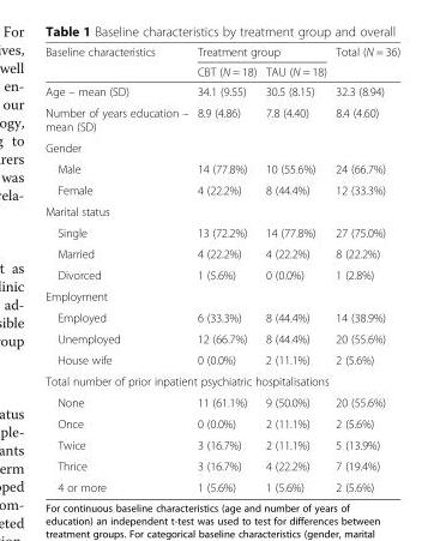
<table><thead><tr><td rowspan="2">Baseline characteristics</td><td colspan="2">Treatment group</td><td rowspan="2">Total (N = 36)</td></tr><tr><td>CBT (N = 18)</td><td>TAU (N = 18)</td></tr></thead><tbody><tr><td>Age – mean (SD)</td><td>34.1 (9.55)</td><td>30.5 (8.15)</td><td>32.3 (8.94)</td></tr><tr><td>Number of years education – mean (SD)</td><td>8.9 (4.86)</td><td>7.8 (4.40)</td><td>8.4 (4.60)</td></tr><tr><td colspan="4">Gender</td></tr><tr><td>Male</td><td>14 (77.8%)</td><td>10 (55.6%)</td><td>24 (66.7%)</td></tr><tr><td>Female</td><td>4 (22.2%)</td><td>8 (44.4%)</td><td>12 (33.3%)</td></tr><tr><td colspan="4">Marital status</td></tr><tr><td>Single</td><td>13 (72.2%)</td><td>14 (77.8%)</td><td>27 (75.0%)</td></tr><tr><td>Married</td><td>4 (22.2%)</td><td>4 (22.2%)</td><td>8 (22.2%)</td></tr><tr><td>Divorced</td><td>1 (5.6%)</td><td>0 (0.0%)</td><td>1 (2.8%)</td></tr><tr><td colspan="4">Employment</td></tr><tr><td>Employed</td><td>6 (33.3%)</td><td>8 (44.4%)</td><td>14 (38.9%)</td></tr><tr><td>Unemployed</td><td>12 (66.7%)</td><td>8 (44.4%)</td><td>20 (55.6%)</td></tr><tr><td>House wife</td><td>0 (0.0%)</td><td>2 (11.1%)</td><td>2 (5.6%)</td></tr><tr><td colspan="4">Total number of prior inpatient psychiatric hospitalisations</td></tr><tr><td>None</td><td>11 (61.1%)</td><td>9 (50.0%)</td><td>20 (55.6%)</td></tr><tr><td>Once</td><td>0 (0.0%)</td><td>2 (11.1%)</td><td>2 (5.6%)</td></tr><tr><td>Twice</td><td>3 (16.7%)</td><td>2 (11.1%)</td><td>5 (13.9%)</td></tr><tr><td>Thrice</td><td>3 (16.7%)</td><td>4 (22.2%)</td><td>7 (19.4%)</td></tr><tr><td>4 or more</td><td>1 (5.6%)</td><td>1 (5.6%)</td><td>2 (5.6%)</td></tr></tbody></table>